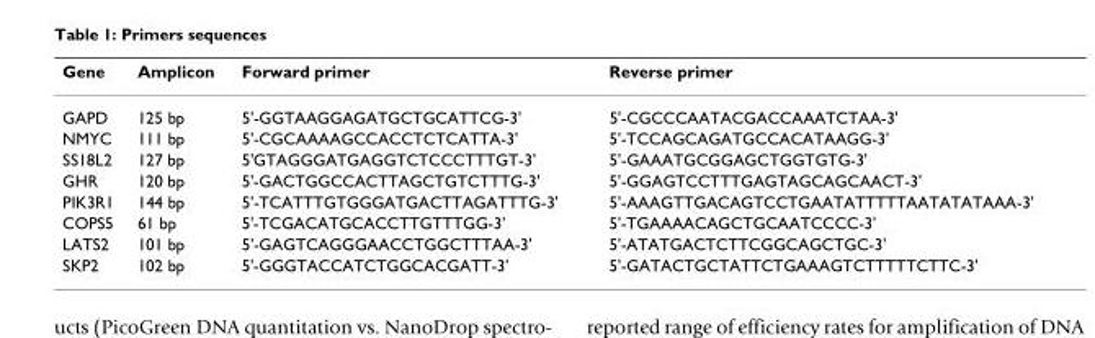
<table><thead><tr><td>Gene</td><td>Amplicon</td><td>Forward primer</td><td>Reverse primer</td></tr></thead><tbody><tr><td>GAPD</td><td>125 bp</td><td>5&#x27;-GGTAAGGAGATGCTGCATTCG-3&#x27;</td><td>5&#x27;-CGCCCAATACGACCAAATCTAA-3&#x27;</td></tr><tr><td>NMYC</td><td>111 bp</td><td>5&#x27;-CGCAAAAGCCACCTCTCATTA-3&#x27;</td><td>5&#x27;-TCCAGCAGATGCCACATAAGG-3&#x27;</td></tr><tr><td>SS18L2</td><td>127 bp</td><td>5&#x27;GTAGGGATGAGGTCTCCCTTTGT-3&#x27;</td><td>5&#x27;-GAAATGCGGAGCTGGTGTG-3&#x27;</td></tr><tr><td>GHR</td><td>120 bp</td><td>5&#x27;-GACTGGCCACTTAGCTGTCTTTG-3&#x27;</td><td>5&#x27;-GGAGTCCTTTGAGTAGCAGCAACT-3&#x27;</td></tr><tr><td>PIK3R1</td><td>144 bp</td><td>5&#x27;-TCATTTGTGGGATGACTTAGATTTG-3&#x27;</td><td>5&#x27;-AAAGTTGACAGTCCTGAATATTTTTAATATATAAA-3&#x27;</td></tr><tr><td>COPS5</td><td>61 bp</td><td>5&#x27;-TCGACATGCACCTTGTTTGG-3&#x27;</td><td>5&#x27;-TGAAAACAGCTGCAATCCCC-3&#x27;</td></tr><tr><td>LATS2</td><td>101 bp</td><td>5&#x27;-GAGTCAGGGAACCTGGCTTTAA-3&#x27;</td><td>5&#x27;-ATATGACTCTTCGGCAGCTGC-3&#x27;</td></tr><tr><td>SKP2</td><td>102 bp</td><td>5&#x27;-GGGTACCATCTGGCACGATT-3&#x27;</td><td>5&#x27;-GATACTGCTATTCTGAAAGTCTTTTTCTTC-3&#x27;</td></tr></tbody></table>